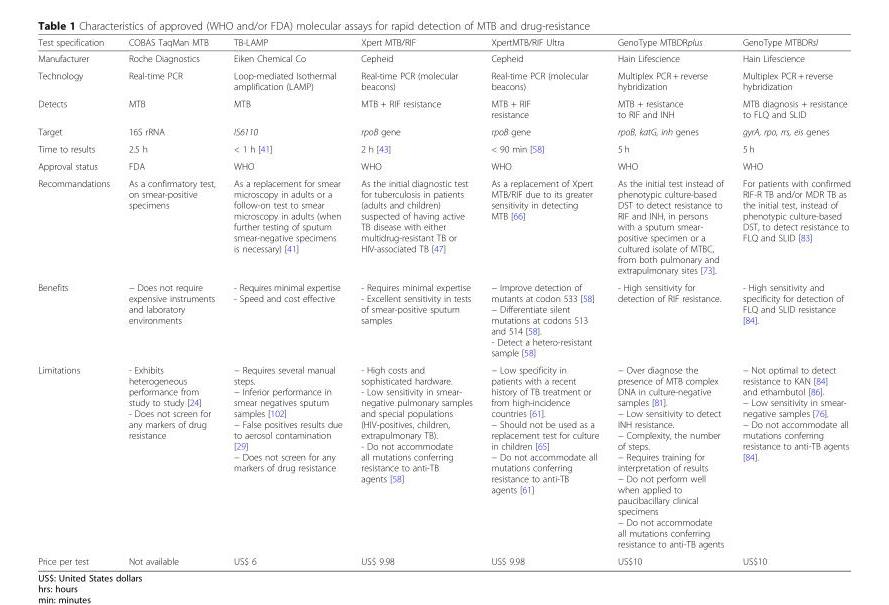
<table><thead><tr><td>Test specification</td><td>COBAS TaqMan MTB</td><td>TB-LAMP</td><td>Xpert MTB/RIF</td><td>XpertMTB/RIF Ultra</td><td>GenoType MTBDRplus</td><td>GenoType MTBDRsl</td></tr></thead><tbody><tr><td>Manufacturer</td><td>Roche Diagnostics</td><td>Eiken Chemical Co</td><td>Cepheid</td><td>Cepheid</td><td>Hain Lifescience</td><td>Hain Lifescience</td></tr><tr><td>Technology</td><td>Real-time PCR</td><td>Loop-mediated Isothermal amplification (LAMP)</td><td>Real-time PCR (molecular beacons)</td><td>Real-time PCR (molecular beacons)</td><td>Multiplex PCR + reverse hybridization</td><td>Multiplex PCR + reverse hybridization</td></tr><tr><td>Detects</td><td>MTB</td><td>MTB</td><td>MTB + RIF resistance</td><td>MTB + RIF resistance</td><td>MTB + resistance to RIF and INH</td><td>MTB diagnosis + resistance to FLQ and SLID</td></tr><tr><td>Target</td><td>16S rRNA</td><td>IS6110</td><td>rpoB gene</td><td>rpoB gene</td><td>rpoB, katG, inh genes</td><td>gyrA, rpo, rrs, eis genes</td></tr><tr><td>Time to results</td><td>2.5 h</td><td>&lt; 1 h [41]</td><td>2 h [43]</td><td>&lt; 90 min [58]</td><td>5 h</td><td>5 h</td></tr><tr><td>Approval status</td><td>FDA</td><td>WHO</td><td>WHO</td><td>WHO</td><td>WHO</td><td>WHO</td></tr><tr><td>Recommandations</td><td>As a confirmatory test, on smear-positive specimens</td><td>As a replacement for smear microscopy in adults or a follow-on test to smear microscopy in adults (when further testing of sputum smear-negative specimens is necessary) [41]</td><td>As the initial diagnostic test for tuberculosis in patients (adults and children) suspected of having active TB disease with either multidrug-resistant TB or HIV-associated TB [47]</td><td>As a replacement of Xpert MTB/RIF due to its greater sensitivity in detecting MTB [66]</td><td>As the initial test instead of phenotypic culture-based DST to detect resistance to RIF and INH, in persons with a sputum smear- positive specimen or a cultured isolate of MTBC, from both pulmonary and extrapulmonary sites [73].</td><td>For patients with confirmed RIF-R TB and/or MDR TB as the initial test, instead of phenotypic culture-based DST, to detect resistance to FLQ and SLID [83]</td></tr><tr><td>Benefits</td><td>− Does not require expensive instruments and laboratory environments</td><td>- Requires minimal expertise - Speed and cost effective</td><td>- Requires minimal expertise - Excellent sensitivity in tests of smear-positive sputum samples</td><td>− Improve detection of mutants at codon 533 [58] − Differentiate silent mutations at codons 513 and 514 [58]. - Detect a hetero-resistant sample [58]</td><td>- High sensitivity for detection of RIF resistance.</td><td>- High sensitivity and specificity for detection of FLQ and SLID resistance [84].</td></tr><tr><td>Limitations</td><td>- Exhibits heterogeneous performance from study to study [24] - Does not screen for any markers of drug resistance</td><td>− Requires several manual steps. − Inferior performance in smear negatives sputum samples [102] − False positives results due to aerosol contamination [29] − Does not screen for any markers of drug resistance</td><td>- High costs and sophisticated hardware. - Low sensitivity in smear- negative pulmonary samples and special populations (HIV-positives, children, extrapulmonary TB). - Do not accommodate all mutations conferring resistance to anti-TB agents [58]</td><td>− Low specificity in patients with a recent history of TB treatment or from high-incidence countries [61]. − Should not be used as a replacement test for culture in children [65] − Do not accommodate all mutations conferring resistance to anti-TB agents [61]</td><td>− Over diagnose the presence of MTB complex DNA in culture-negative samples [81]. − Low sensitivity to detect INH resistance. − Complexity, the number of steps. − Requires training for interpretation of results − Do not perform well when applied to paucibacillary clinical specimens − Do not accommodate all mutations conferring resistance to anti-TB agents</td><td>− Not optimal to detect resistance to KAN [84] and ethambutol [86]. − Low sensitivity in smear- negative samples [76]. − Do not accommodate all mutations conferring resistance to anti-TB agents [84].</td></tr><tr><td>Price per test</td><td>Not available</td><td>US$ 6</td><td>US$ 9.98</td><td>US$ 9.98</td><td>US$10</td><td>US$10</td></tr></tbody></table>